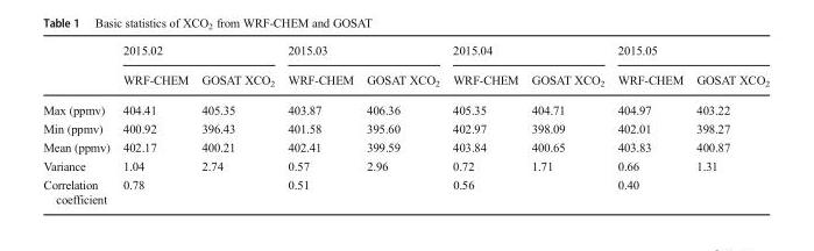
<table><thead><tr><td rowspan="2"></td><td colspan="2">2015.02</td><td colspan="2">2015.03</td><td colspan="2">2015.04</td><td colspan="2">2015.05</td></tr><tr><td>WRF-CHEM</td><td>GOSAT XCO<sub>2</sub></td><td>WRF-CHEM</td><td>GOSAT XCO<sub>2</sub></td><td>WRF-CHEM</td><td>GOSAT XCO<sub>2</sub></td><td>WRF-CHEM</td><td>GOSAT XCO<sub>2</sub></td></tr></thead><tbody><tr><td>Max (ppmv)</td><td>404.41</td><td>405.35</td><td>403.87</td><td>406.36</td><td>405.35</td><td>404.71</td><td>404.97</td><td>403.22</td></tr><tr><td>Min (ppmv)</td><td>400.92</td><td>396.43</td><td>401.58</td><td>395.60</td><td>402.97</td><td>398.09</td><td>402.01</td><td>398.27</td></tr><tr><td>Mean (ppmv)</td><td>402.17</td><td>400.21</td><td>402.41</td><td>399.59</td><td>403.84</td><td>400.65</td><td>403.83</td><td>400.87</td></tr><tr><td>Variance</td><td>1.04</td><td>2.74</td><td>0.57</td><td>2.96</td><td>0.72</td><td>1.71</td><td>0.66</td><td>1.31</td></tr><tr><td>Correlation coefficient</td><td colspan="2">0.78</td><td colspan="2">0.51</td><td colspan="2">0.56</td><td colspan="2">0.40</td></tr></tbody></table>